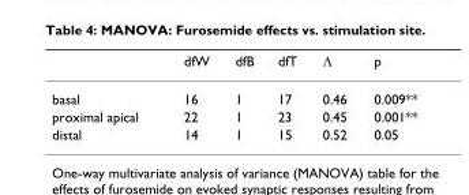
<table><thead><tr><td></td><td>dfW</td><td>dfB</td><td>dfT</td><td>Λ</td><td>p</td></tr></thead><tbody><tr><td>basal</td><td>16</td><td>1</td><td>17</td><td>0.46</td><td>0.009**</td></tr><tr><td>proximal apical</td><td>22</td><td>1</td><td>23</td><td>0.45</td><td>0.001**</td></tr><tr><td>distal</td><td>14</td><td>1</td><td>15</td><td>0.52</td><td>0.05</td></tr></tbody></table>